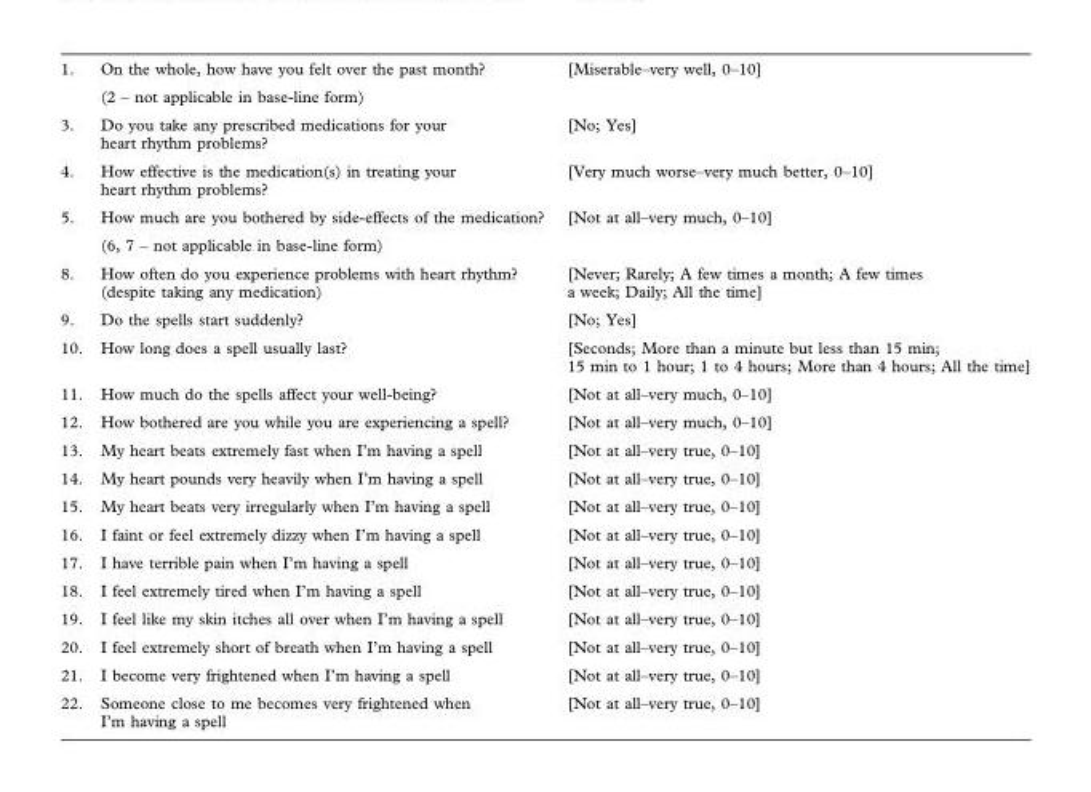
<table><tbody><tr><td rowspan="2">1.</td><td>On the whole, how have you felt over the past month?</td><td>[Miserable–very well, 0–10]</td></tr><tr><td>(2 – not applicable in base-line form)</td><td></td></tr><tr><td>3.</td><td>Do you take any prescribed medications for your heart rhythm problems?</td><td>[No; Yes]</td></tr><tr><td>4.</td><td>How effective is the medication(s) in treating your heart rhythm problems?</td><td>[Very much worse–very much better, 0–10]</td></tr><tr><td rowspan="2">5.</td><td>How much are you bothered by side-effects of the medication?</td><td>[Not at all–very much, 0–10]</td></tr><tr><td>(6, 7 – not applicable in base-line form)</td><td></td></tr><tr><td>8.</td><td>How often do you experience problems with heart rhythm? (despite taking any medication)</td><td>[Never; Rarely; A few times a month; A few times a week; Daily; All the time]</td></tr><tr><td>9.</td><td>Do the spells start suddenly?</td><td>[No; Yes]</td></tr><tr><td>10.</td><td>How long does a spell usually last?</td><td>[Seconds; More than a minute but less than 15 min; 15 min to 1 hour; 1 to 4 hours; More than 4 hours; All the time]</td></tr><tr><td>11.</td><td>How much do the spells affect your well-being?</td><td>[Not at all–very much, 0–10]</td></tr><tr><td>12.</td><td>How bothered are you while you are experiencing a spell?</td><td>[Not at all–very much, 0–10]</td></tr><tr><td>13.</td><td>My heart beats extremely fast when I’m having a spell</td><td>[Not at all–very true, 0–10]</td></tr><tr><td>14.</td><td>My heart pounds very heavily when I’m having a spell</td><td>[Not at all–very true, 0–10]</td></tr><tr><td>15.</td><td>My heart beats very irregularly when I’m having a spell</td><td>[Not at all–very true, 0–10]</td></tr><tr><td>16.</td><td>I faint or feel extremely dizzy when I’m having a spell</td><td>[Not at all–very true, 0–10]</td></tr><tr><td>17.</td><td>I have terrible pain when I’m having a spell</td><td>[Not at all–very true, 0–10]</td></tr><tr><td>18.</td><td>I feel extremely tired when I’m having a spell</td><td>[Not at all–very true, 0–10]</td></tr><tr><td>19.</td><td>I feel like my skin itches all over when I’m having a spell</td><td>[Not at all–very true, 0–10]</td></tr><tr><td>20.</td><td>I feel extremely short of breath when I’m having a spell</td><td>[Not at all–very true, 0–10]</td></tr><tr><td>21.</td><td>I become very frightened when I’m having a spell</td><td>[Not at all–very true, 0–10]</td></tr><tr><td>22.</td><td>Someone close to me becomes very frightened when I’m having a spell</td><td>[Not at all–very true, 0–10]</td></tr></tbody></table>